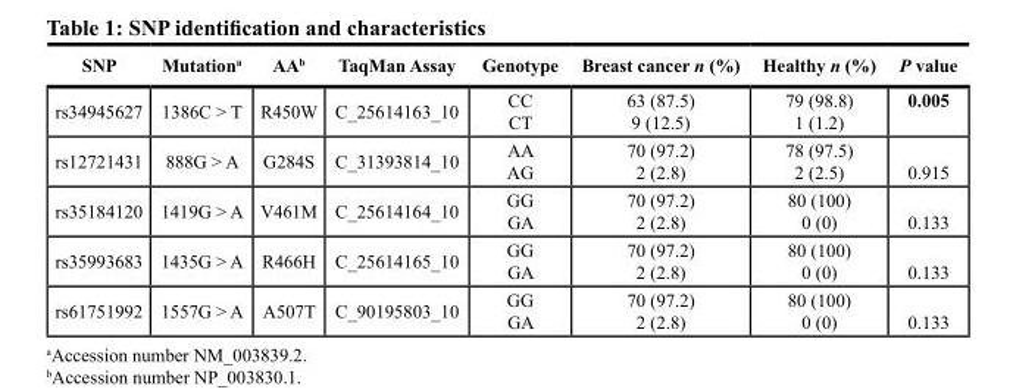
<table><thead><tr><td>snP</td><td>Mutation<sup>a</sup></td><td>AA<sup>b</sup></td><td>taqMan Assay</td><td>Genotype</td><td>breast cancer n (%)</td><td>Healthy n (%)</td><td>P value</td></tr></thead><tbody><tr><td>rs34945627</td><td>1386C &gt; T</td><td>R450W</td><td>C_25614163_10</td><td>CC CT</td><td>63 (87.5) 9 (12.5)</td><td>79 (98.8) 1 (1.2)</td><td>0.005</td></tr><tr><td>rs12721431</td><td>888G &gt; A</td><td>G284S</td><td>C_31393814_10</td><td>AA AG</td><td>70 (97.2) 2 (2.8)</td><td>78 (97.5) 2 (2.5)</td><td>0.915</td></tr><tr><td>rs35184120</td><td>1419G &gt; A</td><td>V461M</td><td>C_25614164_10</td><td>GG GA</td><td>70 (97.2) 2 (2.8)</td><td>80 (100) 0 (0)</td><td>0.133</td></tr><tr><td>rs35993683</td><td>1435G &gt; A</td><td>R466H</td><td>C_25614165_10</td><td>GG GA</td><td>70 (97.2) 2 (2.8)</td><td>80 (100) 0 (0)</td><td>0.133</td></tr><tr><td>rs61751992</td><td>1557G &gt; A</td><td>A507T</td><td>C_90195803_10</td><td>GG GA</td><td>70 (97.2) 2 (2.8)</td><td>80 (100) 0 (0)</td><td>0.133</td></tr></tbody></table>